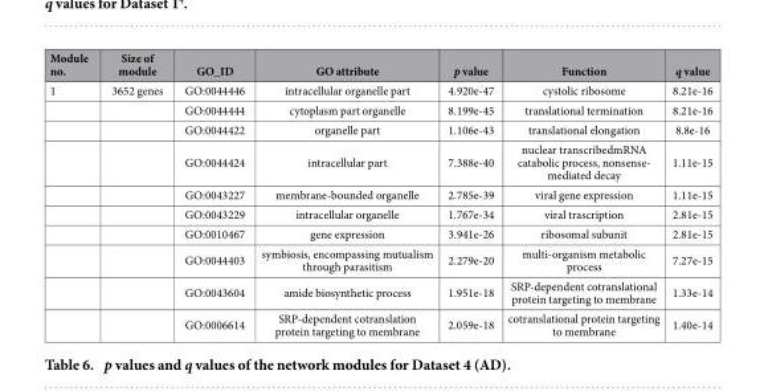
<table><thead><tr><td>Module no.</td><td>Size of module</td><td>GO_ID</td><td>GO attribute</td><td>p value</td><td>Function</td><td>q value</td></tr></thead><tbody><tr><td rowspan="10">1</td><td>3652 genes</td><td>GO:0044446</td><td>intracellular organelle part</td><td>4.920e-47</td><td>cystolic ribosome</td><td>8.21e-16</td></tr><tr><td></td><td>GO:0044444</td><td>cytoplasm part organelle</td><td>8.199e-45</td><td>translational termination</td><td>8.21e-16</td></tr><tr><td></td><td>GO:0044422</td><td>organelle part</td><td>1.106e-43</td><td>translational elongation</td><td>8.8e-16</td></tr><tr><td></td><td>GO:0044424</td><td>intracellular part</td><td>7.388e-40</td><td>nuclear transcribedmRNA catabolic process, nonsense- mediated decay</td><td>1.11e-15</td></tr><tr><td></td><td>GO:0043227</td><td>membrane-bounded organelle</td><td>2.785e-39</td><td>viral gene expression</td><td>1.11e-15</td></tr><tr><td></td><td>GO:0043229</td><td>intracellular organelle</td><td>1.767e-34</td><td>viral trascription</td><td>2.81e-15</td></tr><tr><td></td><td>GO:0010467</td><td>gene expression</td><td>3.941e-26</td><td>ribosomal subunit</td><td>2.81e-15</td></tr><tr><td></td><td>GO:0044403</td><td>symbiosis, encompassing mutualism through parasitism</td><td>2.279e-20</td><td>multi-organism metabolic process</td><td>7.27e-15</td></tr><tr><td></td><td>GO:0043604</td><td>amide biosynthetic process</td><td>1.951e-18</td><td>SRP-dependent cotranslational protein targeting to membrane</td><td>1.33e-14</td></tr><tr><td></td><td>GO:0006614</td><td>SRP-dependent cotranslation protein targeting to membrane</td><td>2.059e-18</td><td>cotranslational protein targeting to membrane</td><td>1.40e-14</td></tr></tbody></table>